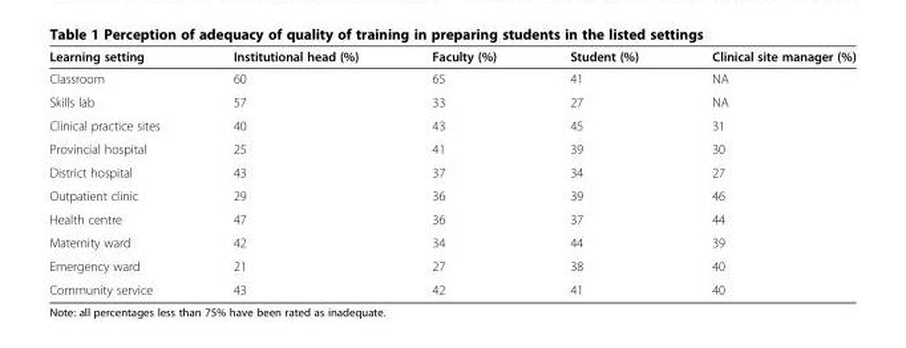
<table><thead><tr><td>Learning setting</td><td>Institutional head (%)</td><td>Faculty (%)</td><td>Student (%)</td><td>Clinical site manager (%)</td></tr></thead><tbody><tr><td>Classroom</td><td>60</td><td>65</td><td>41</td><td>NA</td></tr><tr><td>Skills lab</td><td>57</td><td>33</td><td>27</td><td>NA</td></tr><tr><td>Clinical practice sites</td><td>40</td><td>43</td><td>45</td><td>31</td></tr><tr><td>Provincial hospital</td><td>25</td><td>41</td><td>39</td><td>30</td></tr><tr><td>District hospital</td><td>43</td><td>37</td><td>34</td><td>27</td></tr><tr><td>Outpatient clinic</td><td>29</td><td>36</td><td>39</td><td>46</td></tr><tr><td>Health centre</td><td>47</td><td>36</td><td>37</td><td>44</td></tr><tr><td>Maternity ward</td><td>42</td><td>34</td><td>44</td><td>39</td></tr><tr><td>Emergency ward</td><td>21</td><td>27</td><td>38</td><td>40</td></tr><tr><td>Community service</td><td>43</td><td>42</td><td>41</td><td>40</td></tr></tbody></table>